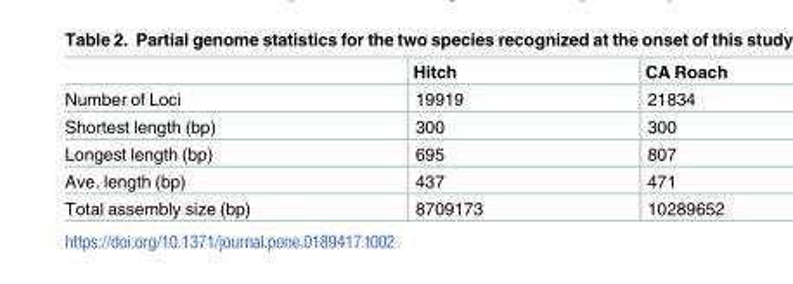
<table><thead><tr><td></td><td>Hitch</td><td>CA Roach</td></tr></thead><tbody><tr><td>Number of Loci</td><td>19919</td><td>21834</td></tr><tr><td>Shortest length (bp)</td><td>300</td><td>300</td></tr><tr><td>Longest length (bp)</td><td>695</td><td>807</td></tr><tr><td>Ave. length (bp)</td><td>437</td><td>471</td></tr><tr><td>Total assembly size (bp)</td><td>8709173</td><td>10289652</td></tr></tbody></table>